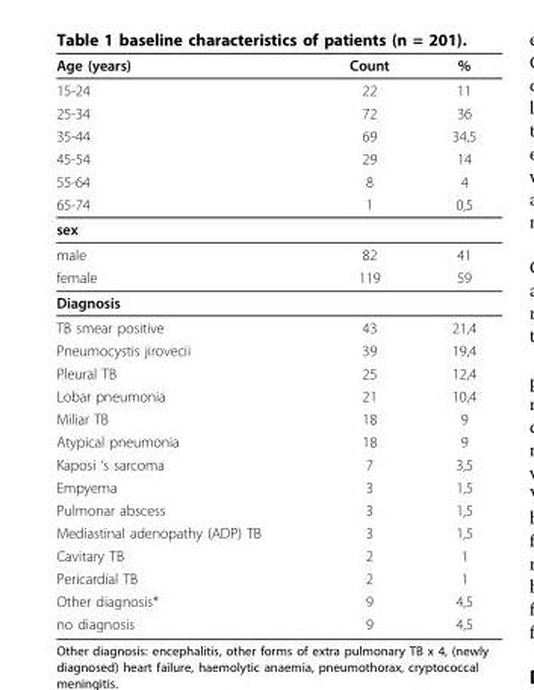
<table><thead><tr><td>Age (years)</td><td>Count</td><td>%</td></tr></thead><tbody><tr><td>15-24</td><td>22</td><td>11</td></tr><tr><td>25-34</td><td>72</td><td>36</td></tr><tr><td>35-44</td><td>69</td><td>34,5</td></tr><tr><td>45-54</td><td>29</td><td>14</td></tr><tr><td>55-64</td><td>8</td><td>4</td></tr><tr><td>65-74</td><td>1</td><td>0,5</td></tr><tr><td colspan="3">sex</td></tr><tr><td>male</td><td>82</td><td>41</td></tr><tr><td>female</td><td>119</td><td>59</td></tr><tr><td colspan="3">Diagnosis</td></tr><tr><td>TB smear positive</td><td>43</td><td>21,4</td></tr><tr><td>Pneumocystis jirovecii</td><td>39</td><td>19,4</td></tr><tr><td>Pleural TB</td><td>25</td><td>12,4</td></tr><tr><td>Lobar pneumonia</td><td>21</td><td>10,4</td></tr><tr><td>Miliar TB</td><td>18</td><td>9</td></tr><tr><td>Atypical pneumonia</td><td>18</td><td>9</td></tr><tr><td>Kaposi ‘s sarcoma</td><td>7</td><td>3,5</td></tr><tr><td>Empyema</td><td>3</td><td>1,5</td></tr><tr><td>Pulmonar abscess</td><td>3</td><td>1,5</td></tr><tr><td>Mediastinal adenopathy (ADP) TB</td><td>3</td><td>1,5</td></tr><tr><td>Cavitary TB</td><td>2</td><td>1</td></tr><tr><td>Pericardial TB</td><td>2</td><td>1</td></tr><tr><td>Other diagnosis*</td><td>9</td><td>4,5</td></tr><tr><td>no diagnosis</td><td>9</td><td>4,5</td></tr></tbody></table>